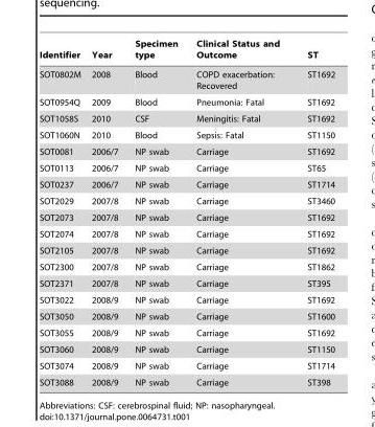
<table><thead><tr><td>Identifier</td><td>Year</td><td>Specimen type</td><td>Clinical Status and Outcome</td><td>ST</td></tr></thead><tbody><tr><td>SOT0802M</td><td>2008</td><td>Blood</td><td>COPD exacerbation: Recovered</td><td>ST1692</td></tr><tr><td>SOT0954Q</td><td>2009</td><td>Blood</td><td>Pneumonia: Fatal</td><td>ST1692</td></tr><tr><td>SOT1058S</td><td>2010</td><td>CSF</td><td>Meningitis: Fatal</td><td>ST1692</td></tr><tr><td>SOT1060N</td><td>2010</td><td>Blood</td><td>Sepsis: Fatal</td><td>ST1150</td></tr><tr><td>SOT0081</td><td>2006/7</td><td>NP swab</td><td>Carriage</td><td>ST1692</td></tr><tr><td>SOT0113</td><td>2006/7</td><td>NP swab</td><td>Carriage</td><td>ST65</td></tr><tr><td>SOT0237</td><td>2006/7</td><td>NP swab</td><td>Carriage</td><td>ST1714</td></tr><tr><td>SOT2029</td><td>2007/8</td><td>NP swab</td><td>Carriage</td><td>ST3460</td></tr><tr><td>SOT2073</td><td>2007/8</td><td>NP swab</td><td>Carriage</td><td>ST1692</td></tr><tr><td>SOT2074</td><td>2007/8</td><td>NP swab</td><td>Carriage</td><td>ST1692</td></tr><tr><td>SOT2105</td><td>2007/8</td><td>NP swab</td><td>Carriage</td><td>ST1692</td></tr><tr><td>SOT2300</td><td>2007/8</td><td>NP swab</td><td>Carriage</td><td>ST1862</td></tr><tr><td>SOT2371</td><td>2007/8</td><td>NP swab</td><td>Carriage</td><td>ST395</td></tr><tr><td>SOT3022</td><td>2008/9</td><td>NP swab</td><td>Carriage</td><td>ST1692</td></tr><tr><td>SOT3050</td><td>2008/9</td><td>NP swab</td><td>Carriage</td><td>ST1600</td></tr><tr><td>SOT3055</td><td>2008/9</td><td>NP swab</td><td>Carriage</td><td>ST1692</td></tr><tr><td>SOT3060</td><td>2008/9</td><td>NP swab</td><td>Carriage</td><td>ST1150</td></tr><tr><td>SOT3074</td><td>2008/9</td><td>NP swab</td><td>Carriage</td><td>ST1714</td></tr><tr><td>SOT3088</td><td>2008/9</td><td>NP swab</td><td>Carriage</td><td>ST398</td></tr></tbody></table>